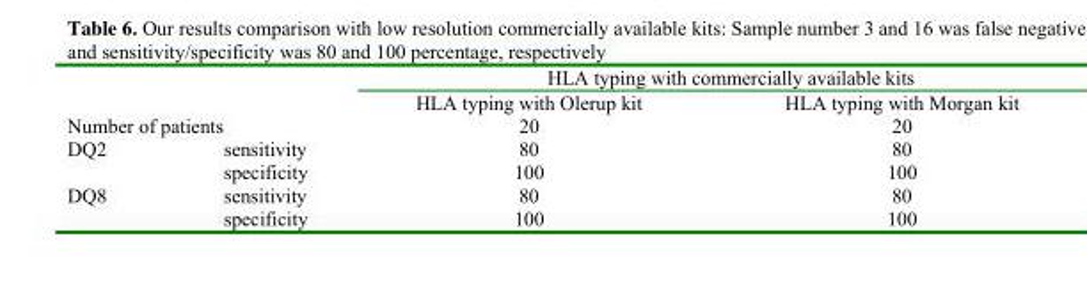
<table><thead><tr><td rowspan="2"></td><td rowspan="2"></td><td colspan="2">HLA typing with commercially available kits</td></tr><tr><td>HLA typing with Olerup kit</td><td>HLA typing with Morgan kit</td></tr></thead><tbody><tr><td colspan="2">Number of patients</td><td>20</td><td>20</td></tr><tr><td rowspan="2">DQ2</td><td>sensitivity</td><td>80</td><td>80</td></tr><tr><td>specificity</td><td>100</td><td>100</td></tr><tr><td rowspan="2">DQ8</td><td>sensitivity</td><td>80</td><td>80</td></tr><tr><td>specificity</td><td>100</td><td>100</td></tr></tbody></table>